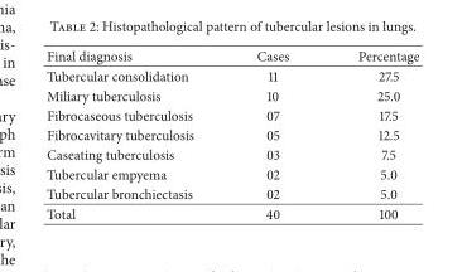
<table><thead><tr><td>Final diagnosis</td><td>Cases</td><td>Percentage</td></tr></thead><tbody><tr><td>Tubercular consolidation</td><td>11</td><td>27.5</td></tr><tr><td>Miliary tuberculosis</td><td>10</td><td>25.0</td></tr><tr><td>Fibrocaseous tuberculosis</td><td>07</td><td>17.5</td></tr><tr><td>Fibrocavitary tuberculosis</td><td>05</td><td>12.5</td></tr><tr><td>Caseating tuberculosis</td><td>03</td><td>7.5</td></tr><tr><td>Tubercular empyema</td><td>02</td><td>5.0</td></tr><tr><td>Tubercular bronchiectasis</td><td>02</td><td>5.0</td></tr><tr><td>Total</td><td>40</td><td>100</td></tr></tbody></table>